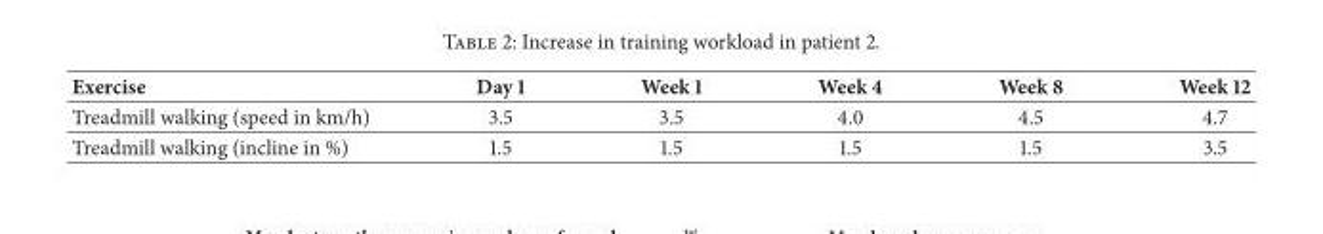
<table><thead><tr><td>Exercise</td><td>Day 1</td><td>Week 1</td><td>Week 4</td><td>Week 8</td><td>Week 12</td></tr></thead><tbody><tr><td>Treadmill walking (speed in km/h)</td><td>3.5</td><td>3.5</td><td>4.0</td><td>4.5</td><td>4.7</td></tr><tr><td>Treadmill walking (incline in %)</td><td>1.5</td><td>1.5</td><td>1.5</td><td>1.5</td><td>3.5</td></tr></tbody></table>